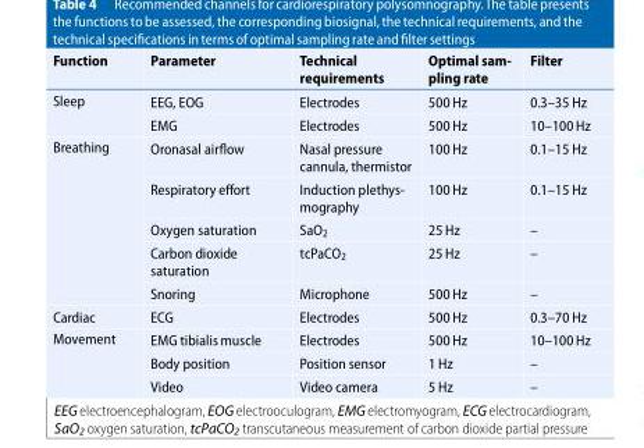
<table><thead><tr><td>Function</td><td>Parameter</td><td>Technical requirements</td><td>Optimal sam- pling rate</td><td>Filter</td></tr></thead><tbody><tr><td rowspan="2">Sleep</td><td>EEG, EOG</td><td>Electrodes</td><td>500 Hz</td><td>0.3–35 Hz</td></tr><tr><td>EMG</td><td>Electrodes</td><td>500 Hz</td><td>10–100 Hz</td></tr><tr><td rowspan="5">Breathing</td><td>Oronasal airflow</td><td>Nasal pressure cannula, thermistor</td><td>100 Hz</td><td>0.1–15 Hz</td></tr><tr><td>Respiratory effort</td><td>Induction plethys- mography</td><td>100 Hz</td><td>0.1–15 Hz</td></tr><tr><td>Oxygen saturation</td><td>SaO<sub>2</sub></td><td>25 Hz</td><td>–</td></tr><tr><td>Carbon dioxide saturation</td><td>tcPaCO<sub>2</sub></td><td>25 Hz</td><td>–</td></tr><tr><td>Snoring</td><td>Microphone</td><td>500 Hz</td><td>–</td></tr><tr><td>Cardiac</td><td>ECG</td><td>Electrodes</td><td>500 Hz</td><td>0.3–70 Hz</td></tr><tr><td rowspan="3">Movement</td><td>EMG tibialis muscle</td><td>Electrodes</td><td>500 Hz</td><td>10–100 Hz</td></tr><tr><td>Body position</td><td>Position sensor</td><td>1 Hz</td><td>–</td></tr><tr><td>Video</td><td>Video camera</td><td>5 Hz</td><td>–</td></tr></tbody></table>